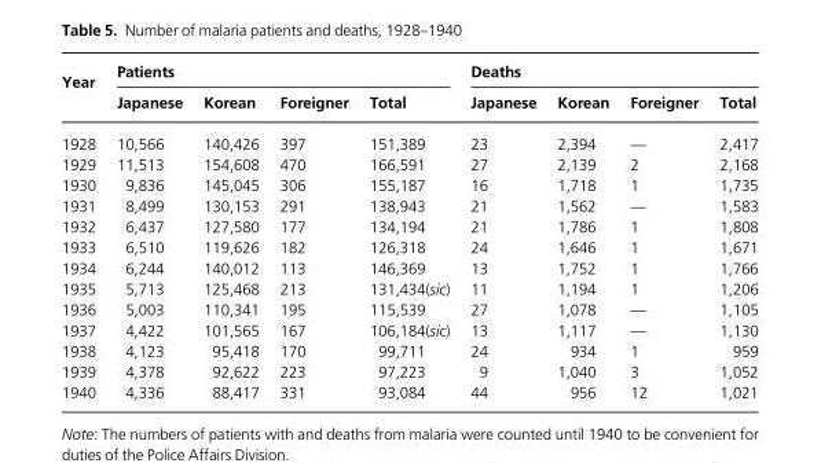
<table><thead><tr><td rowspan="2">Year</td><td colspan="4">Patients</td><td colspan="4">Deaths</td></tr><tr><td>Japanese</td><td>Korean</td><td>Foreigner</td><td>Total</td><td>Japanese</td><td>Korean</td><td>Foreigner</td><td>Total</td></tr></thead><tbody><tr><td>1928</td><td>10,566</td><td>140,426</td><td>397</td><td>151,389</td><td>23</td><td>2,394</td><td>—</td><td>2,417</td></tr><tr><td>1929</td><td>11,513</td><td>154,608</td><td>470</td><td>166,591</td><td>27</td><td>2,139</td><td>2</td><td>2,168</td></tr><tr><td>1930</td><td>9,836</td><td>145,045</td><td>306</td><td>155,187</td><td>16</td><td>1,718</td><td>1</td><td>1,735</td></tr><tr><td>1931</td><td>8,499</td><td>130,153</td><td>291</td><td>138,943</td><td>21</td><td>1,562</td><td>—</td><td>1,583</td></tr><tr><td>1932</td><td>6,437</td><td>127,580</td><td>177</td><td>134,194</td><td>21</td><td>1,786</td><td>1</td><td>1,808</td></tr><tr><td>1933</td><td>6,510</td><td>119,626</td><td>182</td><td>126,318</td><td>24</td><td>1,646</td><td>1</td><td>1,671</td></tr><tr><td>1934</td><td>6,244</td><td>140,012</td><td>113</td><td>146,369</td><td>13</td><td>1,752</td><td>1</td><td>1,766</td></tr><tr><td>1935</td><td>5,713</td><td>125,468</td><td>213</td><td>131,434(sic)</td><td>11</td><td>1,194</td><td>1</td><td>1,206</td></tr><tr><td>1936</td><td>5,003</td><td>110,341</td><td>195</td><td>115,539</td><td>27</td><td>1,078</td><td>—</td><td>1,105</td></tr><tr><td>1937</td><td>4,422</td><td>101,565</td><td>167</td><td>106,184(sic)</td><td>13</td><td>1,117</td><td>—</td><td>1,130</td></tr><tr><td>1938</td><td>4,123</td><td>95,418</td><td>170</td><td>99,711</td><td>24</td><td>934</td><td>1</td><td>959</td></tr><tr><td>1939</td><td>4,378</td><td>92,622</td><td>223</td><td>97,223</td><td>9</td><td>1,040</td><td>3</td><td>1,052</td></tr><tr><td>1940</td><td>4,336</td><td>88,417</td><td>331</td><td>93,084</td><td>44</td><td>956</td><td>12</td><td>1,021</td></tr></tbody></table>